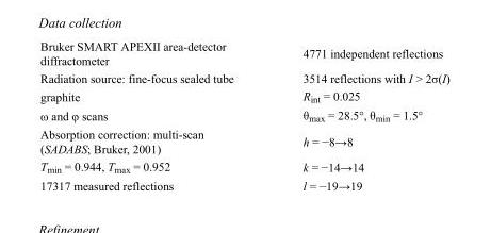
<table><tbody><tr><td>Bruker SMART APEXII area-detector diffractometer</td><td>4771 independent reflections</td></tr><tr><td>Radiation source: fine-focus sealed tube</td><td>3514 reflections with I &gt; 2σ(I)</td></tr><tr><td>graphite</td><td>R<sub>int</sub> = 0.025</td></tr><tr><td>ω and φ scans</td><td>θ<sub>max</sub> = 28.5°, θ<sub>min</sub> = 1.5°</td></tr><tr><td>Absorption correction: multi-scan (SADABS; Bruker, 2001)</td><td>h = −8→8</td></tr><tr><td>T<sub>min</sub> = 0.944, T<sub>max</sub> = 0.952</td><td>k = −14→14</td></tr><tr><td>17317 measured reflections</td><td>l = −19→19</td></tr></tbody></table>